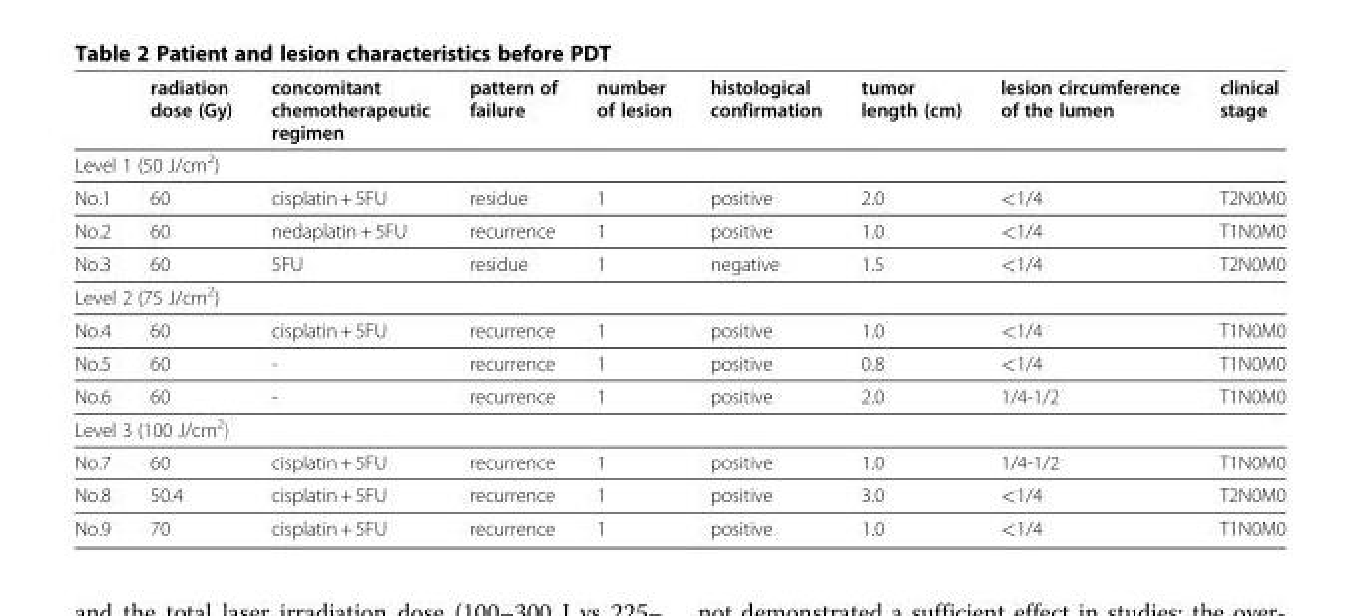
<table><thead><tr><td></td><td>radiation dose (Gy)</td><td>concomitant chemotherapeutic regimen</td><td>pattern of failure</td><td>number of lesion</td><td>histological confirmation</td><td>tumor length (cm)</td><td>lesion circumference of the lumen</td><td>clinical stage</td></tr></thead><tbody><tr><td colspan="9">Level 1 (50 J/cm<sup>2</sup>)</td></tr><tr><td>No.1</td><td>60</td><td>cisplatin + 5FU</td><td>residue</td><td>1</td><td>positive</td><td>2.0</td><td>&lt;1/4</td><td>T2N0M0</td></tr><tr><td>No.2</td><td>60</td><td>nedaplatin + 5FU</td><td>recurrence</td><td>1</td><td>positive</td><td>1.0</td><td>&lt;1/4</td><td>T1N0M0</td></tr><tr><td>No.3</td><td>60</td><td>5FU</td><td>residue</td><td>1</td><td>negative</td><td>1.5</td><td>&lt;1/4</td><td>T2N0M0</td></tr><tr><td colspan="9">Level 2 (75 J/cm<sup>2</sup>)</td></tr><tr><td>No.4</td><td>60</td><td>cisplatin + 5FU</td><td>recurrence</td><td>1</td><td>positive</td><td>1.0</td><td>&lt;1/4</td><td>T1N0M0</td></tr><tr><td>No.5</td><td>60</td><td>-</td><td>recurrence</td><td>1</td><td>positive</td><td>0.8</td><td>&lt;1/4</td><td>T1N0M0</td></tr><tr><td>No.6</td><td>60</td><td>-</td><td>recurrence</td><td>1</td><td>positive</td><td>2.0</td><td>1/4-1/2</td><td>T1N0M0</td></tr><tr><td colspan="9">Level 3 (100 J/cm<sup>2</sup>)</td></tr><tr><td>No.7</td><td>60</td><td>cisplatin + 5FU</td><td>recurrence</td><td>1</td><td>positive</td><td>1.0</td><td>1/4-1/2</td><td>T1N0M0</td></tr><tr><td>No.8</td><td>50.4</td><td>cisplatin + 5FU</td><td>recurrence</td><td>1</td><td>positive</td><td>3.0</td><td>&lt;1/4</td><td>T2N0M0</td></tr><tr><td>No.9</td><td>70</td><td>cisplatin + 5FU</td><td>recurrence</td><td>1</td><td>positive</td><td>1.0</td><td>&lt;1/4</td><td>T1N0M0</td></tr></tbody></table>